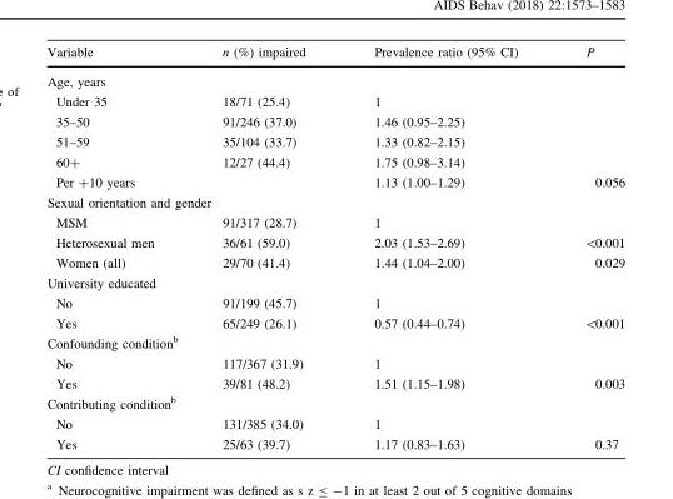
<table><thead><tr><td>Variable</td><td>n (%) impaired</td><td>Prevalence ratio (95% CI)</td><td>P</td></tr></thead><tbody><tr><td colspan="4">Age, years</td></tr><tr><td>Under 35</td><td>18/71 (25.4)</td><td>1</td><td></td></tr><tr><td>35–50</td><td>91/246 (37.0)</td><td>1.46 (0.95–2.25)</td><td></td></tr><tr><td>51–59</td><td>35/104 (33.7)</td><td>1.33 (0.82–2.15)</td><td></td></tr><tr><td>60+</td><td>12/27 (44.4)</td><td>1.75 (0.98–3.14)</td><td></td></tr><tr><td>Per +10 years</td><td></td><td>1.13 (1.00–1.29)</td><td>0.056</td></tr><tr><td colspan="4">Sexual orientation and gender</td></tr><tr><td>MSM</td><td>91/317 (28.7)</td><td>1</td><td></td></tr><tr><td>Heterosexual men</td><td>36/61 (59.0)</td><td>2.03 (1.53–2.69)</td><td>&lt;0.001</td></tr><tr><td>Women (all)</td><td>29/70 (41.4)</td><td>1.44 (1.04–2.00)</td><td>0.029</td></tr><tr><td colspan="4">University educated</td></tr><tr><td>No</td><td>91/199 (45.7)</td><td>1</td><td></td></tr><tr><td>Yes</td><td>65/249 (26.1)</td><td>0.57 (0.44–0.74)</td><td>&lt;0.001</td></tr><tr><td colspan="4">Confounding condition<sup>b</sup></td></tr><tr><td>No</td><td>117/367 (31.9)</td><td>1</td><td></td></tr><tr><td>Yes</td><td>39/81 (48.2)</td><td>1.51 (1.15–1.98)</td><td>0.003</td></tr><tr><td colspan="4">Contributing condition<sup>b</sup></td></tr><tr><td>No</td><td>131/385 (34.0)</td><td>1</td><td></td></tr><tr><td>Yes</td><td>25/63 (39.7)</td><td>1.17 (0.83–1.63)</td><td>0.37</td></tr></tbody></table>